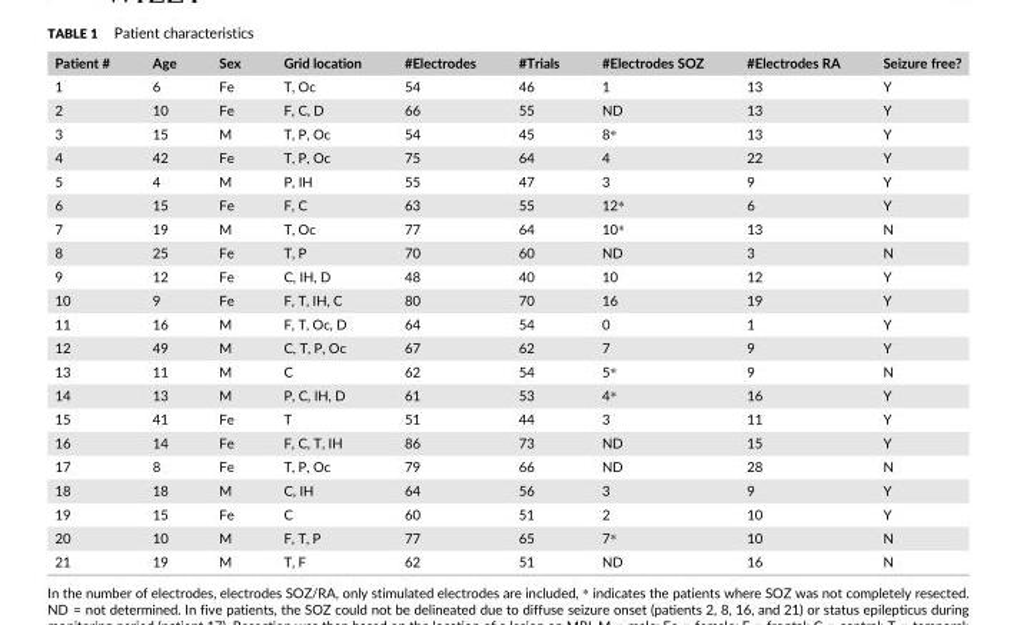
<table><thead><tr><td>Patient #</td><td>Age</td><td>Sex</td><td>Grid location</td><td>#Electrodes</td><td>#Trials</td><td>#Electrodes SOZ</td><td>#Electrodes RA</td><td>Seizure free?</td></tr></thead><tbody><tr><td>1</td><td>6</td><td>Fe</td><td>T, Oc</td><td>54</td><td>46</td><td>1</td><td>13</td><td>Y</td></tr><tr><td>2</td><td>10</td><td>Fe</td><td>F, C, D</td><td>66</td><td>55</td><td>ND</td><td>13</td><td>Y</td></tr><tr><td>3</td><td>15</td><td>M</td><td>T, P, Oc</td><td>54</td><td>45</td><td>8*</td><td>13</td><td>Y</td></tr><tr><td>4</td><td>42</td><td>Fe</td><td>T, P, Oc</td><td>75</td><td>64</td><td>4</td><td>22</td><td>Y</td></tr><tr><td>5</td><td>4</td><td>M</td><td>P, IH</td><td>55</td><td>47</td><td>3</td><td>9</td><td>Y</td></tr><tr><td>6</td><td>15</td><td>Fe</td><td>F, C</td><td>63</td><td>55</td><td>12*</td><td>6</td><td>Y</td></tr><tr><td>7</td><td>19</td><td>M</td><td>T, Oc</td><td>77</td><td>64</td><td>10*</td><td>13</td><td>N</td></tr><tr><td>8</td><td>25</td><td>Fe</td><td>T, P</td><td>70</td><td>60</td><td>ND</td><td>3</td><td>N</td></tr><tr><td>9</td><td>12</td><td>Fe</td><td>C, IH, D</td><td>48</td><td>40</td><td>10</td><td>12</td><td>Y</td></tr><tr><td>10</td><td>9</td><td>Fe</td><td>F, T, IH, C</td><td>80</td><td>70</td><td>16</td><td>19</td><td>Y</td></tr><tr><td>11</td><td>16</td><td>M</td><td>F, T, Oc, D</td><td>64</td><td>54</td><td>0</td><td>1</td><td>Y</td></tr><tr><td>12</td><td>49</td><td>M</td><td>C, T, P, Oc</td><td>67</td><td>62</td><td>7</td><td>9</td><td>Y</td></tr><tr><td>13</td><td>11</td><td>M</td><td>C</td><td>62</td><td>54</td><td>5*</td><td>9</td><td>N</td></tr><tr><td>14</td><td>13</td><td>M</td><td>P, C, IH, D</td><td>61</td><td>53</td><td>4*</td><td>16</td><td>Y</td></tr><tr><td>15</td><td>41</td><td>Fe</td><td>T</td><td>51</td><td>44</td><td>3</td><td>11</td><td>Y</td></tr><tr><td>16</td><td>14</td><td>Fe</td><td>F, C, T, IH</td><td>86</td><td>73</td><td>ND</td><td>15</td><td>Y</td></tr><tr><td>17</td><td>8</td><td>Fe</td><td>T, P, Oc</td><td>79</td><td>66</td><td>ND</td><td>28</td><td>N</td></tr><tr><td>18</td><td>18</td><td>M</td><td>C, IH</td><td>64</td><td>56</td><td>3</td><td>9</td><td>Y</td></tr><tr><td>19</td><td>15</td><td>Fe</td><td>C</td><td>60</td><td>51</td><td>2</td><td>10</td><td>Y</td></tr><tr><td>20</td><td>10</td><td>M</td><td>F, T, P</td><td>77</td><td>65</td><td>7*</td><td>10</td><td>N</td></tr><tr><td>21</td><td>19</td><td>M</td><td>T, F</td><td>62</td><td>51</td><td>ND</td><td>16</td><td>N</td></tr></tbody></table>